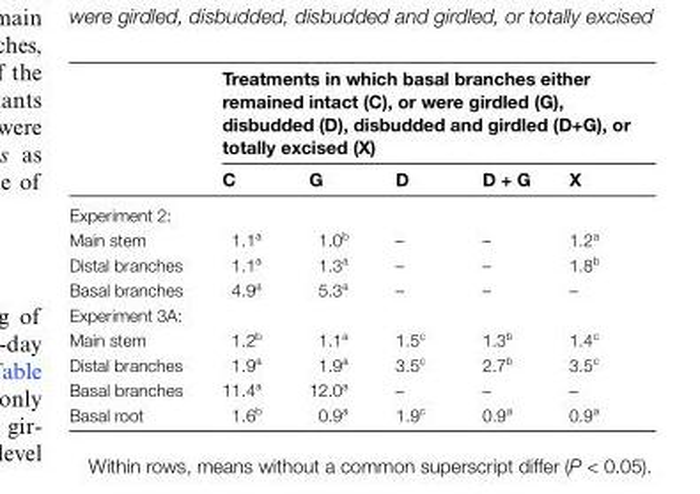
<table><thead><tr><td rowspan="2"></td><td colspan="5">Treatments in which basal branches either remained intact (C), or were girdled (G), disbudded (D), disbudded and girdled (D+G), or totally excised (X)</td></tr><tr><td>C</td><td>G</td><td>D</td><td>D + G</td><td>X</td></tr></thead><tbody><tr><td colspan="6">Experiment 2:</td></tr><tr><td>Main stem</td><td>1.1<sup>a</sup></td><td>1.0<sup>b</sup></td><td>–</td><td>–</td><td>1.2<sup>a</sup></td></tr><tr><td>Distal branches</td><td>1.1<sup>a</sup></td><td>1.3<sup>a</sup></td><td>–</td><td>–</td><td>1.8<sup>b</sup></td></tr><tr><td>Basal branches</td><td>4.9<sup>a</sup></td><td>5.3<sup>a</sup></td><td>–</td><td>–</td><td>–</td></tr><tr><td colspan="6">Experiment 3A:</td></tr><tr><td>Main stem</td><td>1.2<sup>b</sup></td><td>1.1<sup>a</sup></td><td>1.5<sup>c</sup></td><td>1.3<sup>b</sup></td><td>1.4<sup>c</sup></td></tr><tr><td>Distal branches</td><td>1.9<sup>a</sup></td><td>1.9<sup>a</sup></td><td>3.5<sup>c</sup></td><td>2.7<sup>b</sup></td><td>3.5<sup>c</sup></td></tr><tr><td>Basal branches</td><td>11.4<sup>a</sup></td><td>12.0<sup>a</sup></td><td>–</td><td>–</td><td>–</td></tr><tr><td>Basal root</td><td>1.6<sup>b</sup></td><td>0.9<sup>a</sup></td><td>1.9<sup>c</sup></td><td>0.9<sup>a</sup></td><td>0.9<sup>a</sup></td></tr></tbody></table>